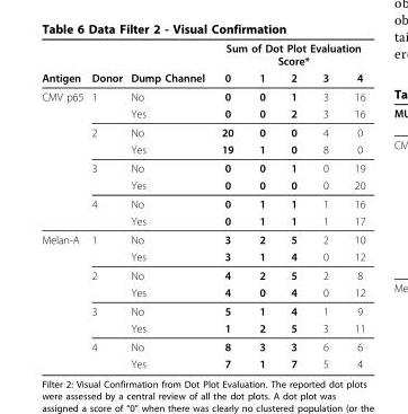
<table><thead><tr><td rowspan="2">Antigen</td><td rowspan="2">Donor</td><td rowspan="2">Dump Channel</td><td colspan="5">Sum of Dot Plot Evaluation Score*</td></tr><tr><td>0</td><td>1</td><td>2</td><td>3</td><td>4</td></tr></thead><tbody><tr><td rowspan="8">CMV p65</td><td>1</td><td>No</td><td>0</td><td>0</td><td>1</td><td>3</td><td>16</td></tr><tr><td></td><td>Yes</td><td>0</td><td>0</td><td>2</td><td>3</td><td>16</td></tr><tr><td>2</td><td>No</td><td>20</td><td>0</td><td>0</td><td>4</td><td>0</td></tr><tr><td></td><td>Yes</td><td>19</td><td>1</td><td>0</td><td>8</td><td>0</td></tr><tr><td>3</td><td>No</td><td>0</td><td>0</td><td>1</td><td>0</td><td>19</td></tr><tr><td></td><td>Yes</td><td>0</td><td>0</td><td>0</td><td>0</td><td>20</td></tr><tr><td>4</td><td>No</td><td>0</td><td>1</td><td>1</td><td>1</td><td>16</td></tr><tr><td></td><td>Yes</td><td>0</td><td>1</td><td>1</td><td>1</td><td>17</td></tr><tr><td rowspan="8">Melan-A</td><td>1</td><td>No</td><td>3</td><td>2</td><td>5</td><td>2</td><td>10</td></tr><tr><td></td><td>Yes</td><td>3</td><td>1</td><td>4</td><td>0</td><td>12</td></tr><tr><td>2</td><td>No</td><td>4</td><td>2</td><td>5</td><td>2</td><td>8</td></tr><tr><td></td><td>Yes</td><td>4</td><td>0</td><td>4</td><td>0</td><td>12</td></tr><tr><td>3</td><td>No</td><td>5</td><td>1</td><td>4</td><td>1</td><td>9</td></tr><tr><td></td><td>Yes</td><td>1</td><td>2</td><td>5</td><td>3</td><td>11</td></tr><tr><td>4</td><td>No</td><td>8</td><td>3</td><td>3</td><td>6</td><td>6</td></tr><tr><td></td><td>Yes</td><td>7</td><td>1</td><td>7</td><td>5</td><td>4</td></tr></tbody></table>